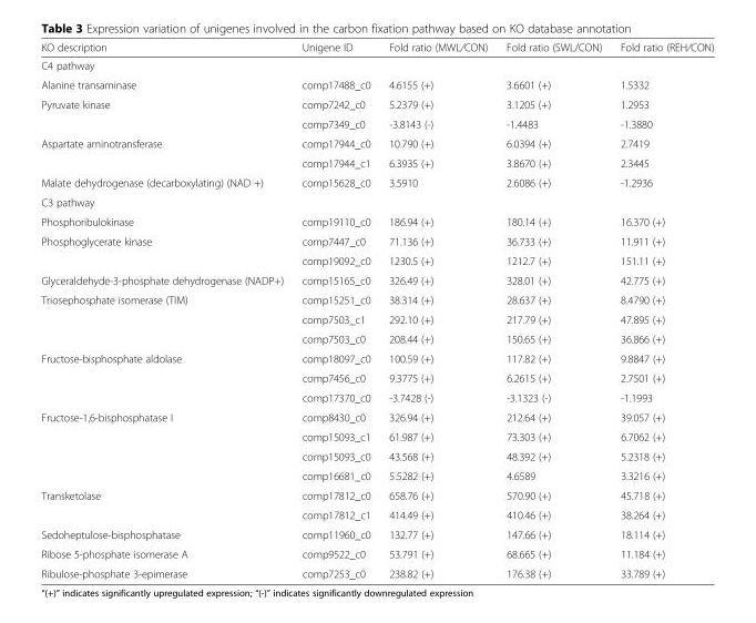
<table><thead><tr><td>KO description</td><td>Unigene ID</td><td>Fold ratio (MWL/CON)</td><td>Fold ratio (SWL/CON)</td><td>Fold ratio (REH/CON)</td></tr></thead><tbody><tr><td colspan="5">C4 pathway</td></tr><tr><td>Alanine transaminase</td><td>comp17488_c0</td><td>4.6155 (+)</td><td>3.6601 (+)</td><td>1.5332</td></tr><tr><td rowspan="2">Pyruvate kinase</td><td>comp7242_c0</td><td>5.2379 (+)</td><td>3.1205 (+)</td><td>1.2953</td></tr><tr><td>comp7349_c0</td><td>-3.8143 (-)</td><td>-1.4483</td><td>-1.3880</td></tr><tr><td rowspan="2">Aspartate aminotransferase</td><td>comp17944_c0</td><td>10.790 (+)</td><td>6.0394 (+)</td><td>2.7419</td></tr><tr><td>comp17944_c1</td><td>6.3935 (+)</td><td>3.8670 (+)</td><td>2.3445</td></tr><tr><td>Malate dehydrogenase (decarboxylating) (NAD +)</td><td>comp15628_c0</td><td>3.5910</td><td>2.6086 (+)</td><td>-1.2936</td></tr><tr><td colspan="5">C3 pathway</td></tr><tr><td>Phosphoribulokinase</td><td>comp19110_c0</td><td>186.94 (+)</td><td>180.14 (+)</td><td>16.370 (+)</td></tr><tr><td rowspan="2">Phosphoglycerate kinase</td><td>comp7447_c0</td><td>71.136 (+)</td><td>36.733 (+)</td><td>11.911 (+)</td></tr><tr><td>comp19092_c0</td><td>1230.5 (+)</td><td>1212.7 (+)</td><td>151.11 (+)</td></tr><tr><td>Glyceraldehyde-3-phosphate dehydrogenase (NADP+)</td><td>comp15165_c0</td><td>326.49 (+)</td><td>328.01 (+)</td><td>42.775 (+)</td></tr><tr><td rowspan="3">Triosephosphate isomerase (TIM)</td><td>comp15251_c0</td><td>38.314 (+)</td><td>28.637 (+)</td><td>8.4790 (+)</td></tr><tr><td>comp7503_c1</td><td>292.10 (+)</td><td>217.79 (+)</td><td>47.895 (+)</td></tr><tr><td>comp7503_c0</td><td>208.44 (+)</td><td>150.65 (+)</td><td>36.866 (+)</td></tr><tr><td rowspan="3">Fructose-bisphosphate aldolase</td><td>comp18097_c0</td><td>100.59 (+)</td><td>117.82 (+)</td><td>9.8847 (+)</td></tr><tr><td>comp7456_c0</td><td>9.3775 (+)</td><td>6.2615 (+)</td><td>2.7501 (+)</td></tr><tr><td>comp17370_c0</td><td>-3.7428 (-)</td><td>-3.1323 (-)</td><td>-1.1993</td></tr><tr><td rowspan="4">Fructose-1,6-bisphosphatase I</td><td>comp8430_c0</td><td>326.94 (+)</td><td>212.64 (+)</td><td>39.057 (+)</td></tr><tr><td>comp15093_c1</td><td>61.987 (+)</td><td>73.303 (+)</td><td>6.7062 (+)</td></tr><tr><td>comp15093_c0</td><td>43.568 (+)</td><td>48.392 (+)</td><td>5.2318 (+)</td></tr><tr><td>comp16681_c0</td><td>5.5282 (+)</td><td>4.6589</td><td>3.3216 (+)</td></tr><tr><td rowspan="2">Transketolase</td><td>comp17812_c0</td><td>658.76 (+)</td><td>570.90 (+)</td><td>45.718 (+)</td></tr><tr><td>comp17812_c1</td><td>414.49 (+)</td><td>410.46 (+)</td><td>38.264 (+)</td></tr><tr><td>Sedoheptulose-bisphosphatase</td><td>comp11960_c0</td><td>132.77 (+)</td><td>147.66 (+)</td><td>18.114 (+)</td></tr><tr><td>Ribose 5-phosphate isomerase A</td><td>comp9522_c0</td><td>53.791 (+)</td><td>68.665 (+)</td><td>11.184 (+)</td></tr><tr><td>Ribulose-phosphate 3-epimerase</td><td>comp7253_c0</td><td>238.82 (+)</td><td>176.38 (+)</td><td>33.789 (+)</td></tr></tbody></table>